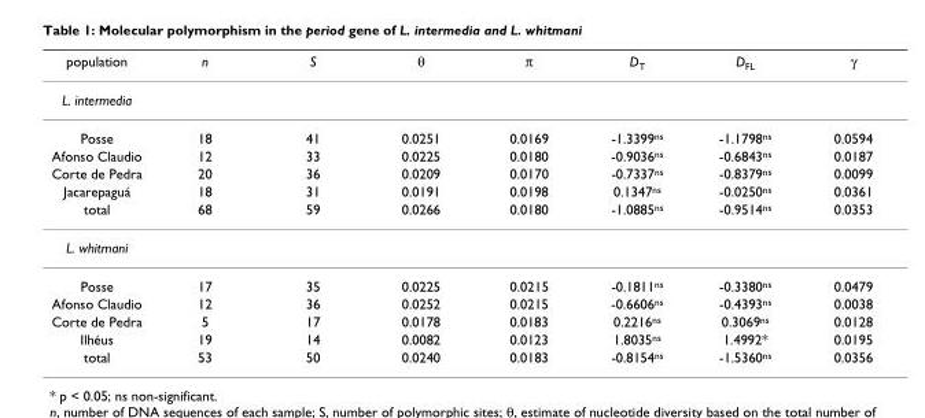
<table><thead><tr><td>population</td><td>n</td><td>S</td><td>θ</td><td>π</td><td>D<sub>T</sub></td><td>D<sub>FL</sub></td><td>γ</td></tr></thead><tbody><tr><td colspan="8">L. intermedia</td></tr><tr><td>Posse</td><td>18</td><td>41</td><td>0.0251</td><td>0.0169</td><td>-1.3399<sup>ns</sup></td><td>-1.1798<sup>ns</sup></td><td>0.0594</td></tr><tr><td>Afonso Claudio</td><td>12</td><td>33</td><td>0.0225</td><td>0.0180</td><td>-0.9036<sup>ns</sup></td><td>-0.6843<sup>ns</sup></td><td>0.0187</td></tr><tr><td>Corte de Pedra</td><td>20</td><td>36</td><td>0.0209</td><td>0.0170</td><td>-0.7337<sup>ns</sup></td><td>-0.8379<sup>ns</sup></td><td>0.0099</td></tr><tr><td>Jacarepaguá</td><td>18</td><td>31</td><td>0.0191</td><td>0.0198</td><td>0.1347<sup>ns</sup></td><td>-0.0250<sup>ns</sup></td><td>0.0361</td></tr><tr><td>total</td><td>68</td><td>59</td><td>0.0266</td><td>0.0180</td><td>-1.0885<sup>ns</sup></td><td>-0.9514<sup>ns</sup></td><td>0.0353</td></tr><tr><td colspan="8">L. whitmani</td></tr><tr><td>Posse</td><td>17</td><td>35</td><td>0.0225</td><td>0.0215</td><td>-0.1811<sup>ns</sup></td><td>-0.3380<sup>ns</sup></td><td>0.0479</td></tr><tr><td>Afonso Claudio</td><td>12</td><td>36</td><td>0.0252</td><td>0.0215</td><td>-0.6606<sup>ns</sup></td><td>-0.4393<sup>ns</sup></td><td>0.0038</td></tr><tr><td>Corte de Pedra</td><td>5</td><td>17</td><td>0.0178</td><td>0.0183</td><td>0.2216<sup>ns</sup></td><td>0.3069<sup>ns</sup></td><td>0.0128</td></tr><tr><td>Ilhéus</td><td>19</td><td>14</td><td>0.0082</td><td>0.0123</td><td>1.8035<sup>ns</sup></td><td>1.4992*</td><td>0.0195</td></tr><tr><td>total</td><td>53</td><td>50</td><td>0.0240</td><td>0.0183</td><td>-0.8154<sup>ns</sup></td><td>-1.5360<sup>ns</sup></td><td>0.0356</td></tr></tbody></table>